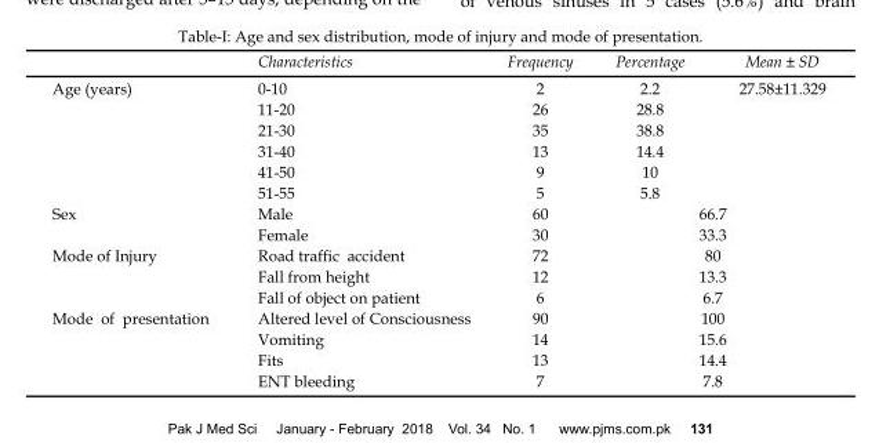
<table><thead><tr><td></td><td>Characteristics</td><td>Frequency</td><td>Percentage</td><td>Mean ± SD</td></tr></thead><tbody><tr><td rowspan="6">Age (years)</td><td>0-10</td><td>2</td><td>2.2</td><td>27.58±11.329</td></tr><tr><td>11-20</td><td>26</td><td>28.8</td><td></td></tr><tr><td>21-30</td><td>35</td><td>38.8</td><td></td></tr><tr><td>31-40</td><td>13</td><td>14.4</td><td></td></tr><tr><td>41-50</td><td>9</td><td>10</td><td></td></tr><tr><td>51-55</td><td>5</td><td>5.8</td><td></td></tr><tr><td rowspan="2">Sex</td><td>Male</td><td>60</td><td>66.7</td><td></td></tr><tr><td>Female</td><td>30</td><td>33.3</td><td></td></tr><tr><td rowspan="3">Mode of Injury</td><td>Road traffic accident</td><td>72</td><td>80</td><td></td></tr><tr><td>Fall from height</td><td>12</td><td>13.3</td><td></td></tr><tr><td>Fall of object on patient</td><td>6</td><td>6.7</td><td></td></tr><tr><td rowspan="4">Mode of presentation</td><td>Altered level of Consciousness</td><td>90</td><td>100</td><td></td></tr><tr><td>Vomiting</td><td>14</td><td>15.6</td><td></td></tr><tr><td>Fits</td><td>13</td><td>14.4</td><td></td></tr><tr><td>ENT bleeding</td><td>7</td><td>7.8</td><td></td></tr></tbody></table>